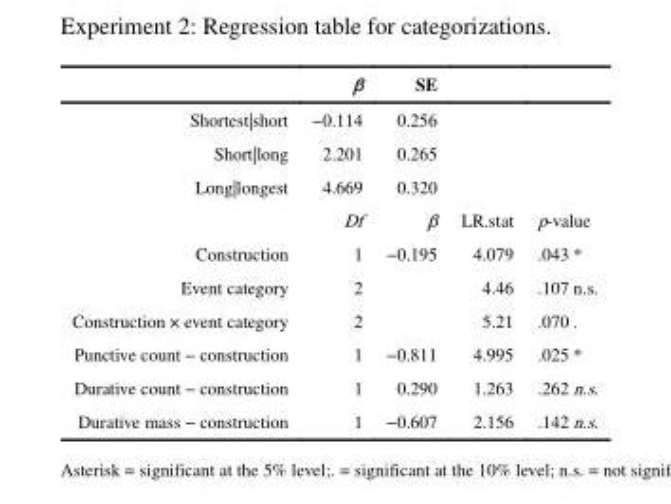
<table><thead><tr><td></td><td>β</td><td>SE</td><td></td><td></td></tr></thead><tbody><tr><td>Shortest|short</td><td>−0.114</td><td>0.256</td><td></td><td></td></tr><tr><td>Short|long</td><td>2.201</td><td>0.265</td><td></td><td></td></tr><tr><td rowspan="2">Long|longest</td><td>4.669</td><td>0.320</td><td></td><td></td></tr><tr><td>Df</td><td>β</td><td>LR.stat</td><td>p-value</td></tr><tr><td>Construction</td><td>1</td><td>−0.195</td><td>4.079</td><td>.043 *</td></tr><tr><td>Event category</td><td>2</td><td></td><td>4.46</td><td>.107 n.s.</td></tr><tr><td>Construction × event category</td><td>2</td><td></td><td>5.21</td><td>.070 .</td></tr><tr><td>Punctive count − construction</td><td>1</td><td>−0.811</td><td>4.995</td><td>.025 *</td></tr><tr><td>Durative count − construction</td><td>1</td><td>0.290</td><td>1.263</td><td>.262 n.s.</td></tr><tr><td>Durative mass − construction</td><td>1</td><td>−0.607</td><td>2.156</td><td>.142 n.s.</td></tr></tbody></table>